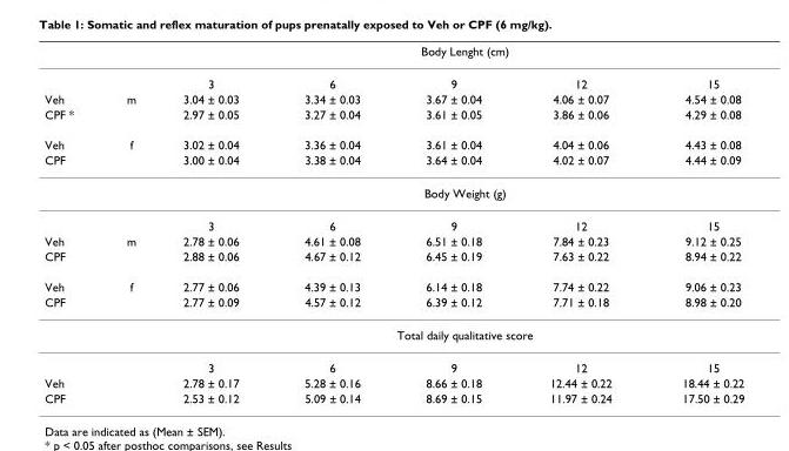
<table><thead><tr><td rowspan="2"></td><td rowspan="2"></td><td colspan="5">Body Lenght (cm)</td></tr><tr><td>3</td><td>6</td><td>9</td><td>12</td><td>15</td></tr></thead><tbody><tr><td>Veh</td><td>m</td><td>3.04 ± 0.03</td><td>3.34 ± 0.03</td><td>3.67 ± 0.04</td><td>4.06 ± 0.07</td><td>4.54 ± 0.08</td></tr><tr><td>CPF *</td><td></td><td>2.97 ± 0.05</td><td>3.27 ± 0.04</td><td>3.61 ± 0.05</td><td>3.86 ± 0.06</td><td>4.29 ± 0.08</td></tr><tr><td>Veh</td><td>f</td><td>3.02 ± 0.04</td><td>3.36 ± 0.04</td><td>3.61 ± 0.04</td><td>4.04 ± 0.06</td><td>4.43 ± 0.08</td></tr><tr><td rowspan="3">CPF</td><td></td><td>3.00 ± 0.04</td><td>3.38 ± 0.04</td><td>3.64 ± 0.04</td><td>4.02 ± 0.07</td><td>4.44 ± 0.09</td></tr><tr><td></td><td colspan="5">Body Weight (g)</td></tr><tr><td></td><td>3</td><td>6</td><td>9</td><td>12</td><td>15</td></tr><tr><td>Veh</td><td>m</td><td>2.78 ± 0.06</td><td>4.61 ± 0.08</td><td>6.51 ± 0.18</td><td>7.84 ± 0.23</td><td>9.12 ± 0.25</td></tr><tr><td>CPF</td><td></td><td>2.88 ± 0.06</td><td>4.67 ± 0.12</td><td>6.45 ± 0.19</td><td>7.63 ± 0.22</td><td>8.94 ± 0.22</td></tr><tr><td>Veh</td><td>f</td><td>2.77 ± 0.06</td><td>4.39 ± 0.13</td><td>6.14 ± 0.18</td><td>7.74 ± 0.22</td><td>9.06 ± 0.23</td></tr><tr><td rowspan="3">CPF</td><td></td><td>2.77 ± 0.09</td><td>4.57 ± 0.12</td><td>6.39 ± 0.12</td><td>7.71 ± 0.18</td><td>8.98 ± 0.20</td></tr><tr><td></td><td colspan="5">Total daily qualitative score</td></tr><tr><td></td><td>3</td><td>6</td><td>9</td><td>12</td><td>15</td></tr><tr><td>Veh</td><td></td><td>2.78 ± 0.17</td><td>5.28 ± 0.16</td><td>8.66 ± 0.18</td><td>12.44 ± 0.22</td><td>18.44 ± 0.22</td></tr><tr><td>CPF</td><td></td><td>2.53 ± 0.12</td><td>5.09 ± 0.14</td><td>8.69 ± 0.15</td><td>11.97 ± 0.24</td><td>17.50 ± 0.29</td></tr></tbody></table>